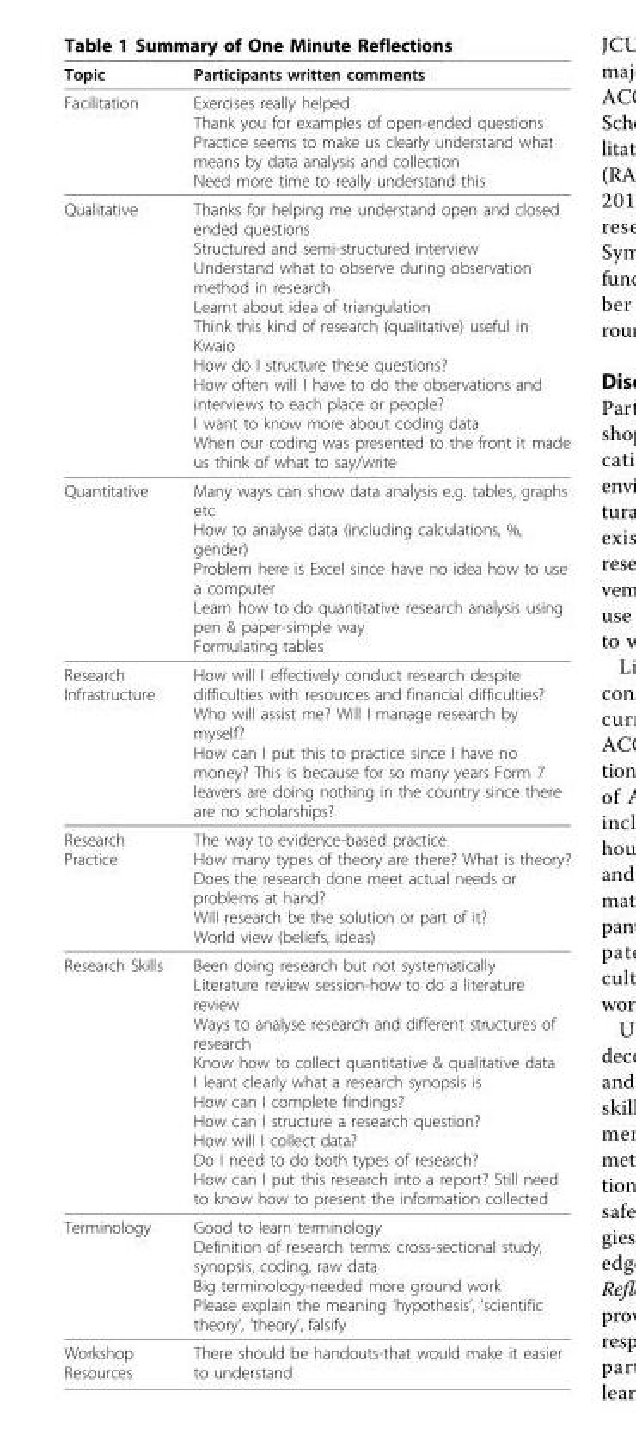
<table><thead><tr><td>Topic</td><td>Participants written comments</td></tr></thead><tbody><tr><td>Facilitation</td><td>Exercises really helped Thank you for examples of open-ended questions Practice seems to make us clearly understand what means by data analysis and collection Need more time to really understand this</td></tr><tr><td>Qualitative</td><td>Thanks for helping me understand open and closed ended questions Structured and semi-structured interview Understand what to observe during observation method in research Learnt about idea of triangulation Think this kind of research (qualitative) useful in Kwaio How do I structure these questions? How often will I have to do the observations and interviews to each place or people? I want to know more about coding data When our coding was presented to the front it made us think of what to say/write</td></tr><tr><td>Quantitative</td><td>Many ways can show data analysis e.g. tables, graphs etc How to analyse data (including calculations, %, gender) Problem here is Excel since have no idea how to use a computer Learn how to do quantitative research analysis using pen &amp; paper-simple way Formulating tables</td></tr><tr><td>Research Infrastructure</td><td>How will I effectively conduct research despite difficulties with resources and financial difficulties? Who will assist me? Will I manage research by myself? How can I put this to practice since I have no money? This is because for so many years Form 7 leavers are doing nothing in the country since there are no scholarships?</td></tr><tr><td>Research Practice</td><td>The way to evidence-based practice How many types of theory are there? What is theory? Does the research done meet actual needs or problems at hand? Will research be the solution or part of it? World view (beliefs, ideas)</td></tr><tr><td>Research Skills</td><td>Been doing research but not systematically Literature review session-how to do a literature review Ways to analyse research and different structures of research Know how to collect quantitative &amp; qualitative data I leant clearly what a research synopsis is How can I complete findings? How can I structure a research question? How will I collect data? Do I need to do both types of research? How can I put this research into a report? Still need to know how to present the information collected</td></tr><tr><td>Terminology</td><td>Good to learn terminology Definition of research terms: cross-sectional study, synopsis, coding, raw data Big terminology-needed more ground work Please explain the meaning ‘hypothesis’, ‘scientific theory’, ‘theory’, falsify</td></tr><tr><td>Workshop Resources</td><td>There should be handouts-that would make it easier to understand</td></tr></tbody></table>